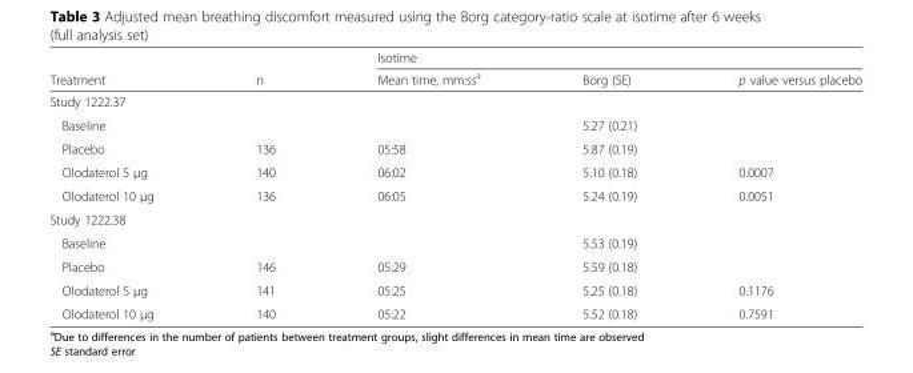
<table><thead><tr><td rowspan="2">Treatment</td><td rowspan="2">n</td><td colspan="3">Isotime</td></tr><tr><td>Mean time, mm:ss<sup>a</sup></td><td>Borg (SE)</td><td>p value versus placebo</td></tr></thead><tbody><tr><td colspan="5">Study 1222.37</td></tr><tr><td>Baseline</td><td></td><td></td><td>5.27 (0.21)</td><td></td></tr><tr><td>Placebo</td><td>136</td><td>05:58</td><td>5.87 (0.19)</td><td></td></tr><tr><td>Olodaterol 5 μg</td><td>140</td><td>06:02</td><td>5.10 (0.18)</td><td>0.0007</td></tr><tr><td>Olodaterol 10 μg</td><td>136</td><td>06:05</td><td>5.24 (0.19)</td><td>0.0051</td></tr><tr><td colspan="5">Study 1222.38</td></tr><tr><td>Baseline</td><td></td><td></td><td>5.53 (0.19)</td><td></td></tr><tr><td>Placebo</td><td>146</td><td>05:29</td><td>5.59 (0.18)</td><td></td></tr><tr><td>Olodaterol 5 μg</td><td>141</td><td>05:25</td><td>5.25 (0.18)</td><td>0.1176</td></tr><tr><td>Olodaterol 10 μg</td><td>140</td><td>05:22</td><td>5.52 (0.18)</td><td>0.7591</td></tr></tbody></table>